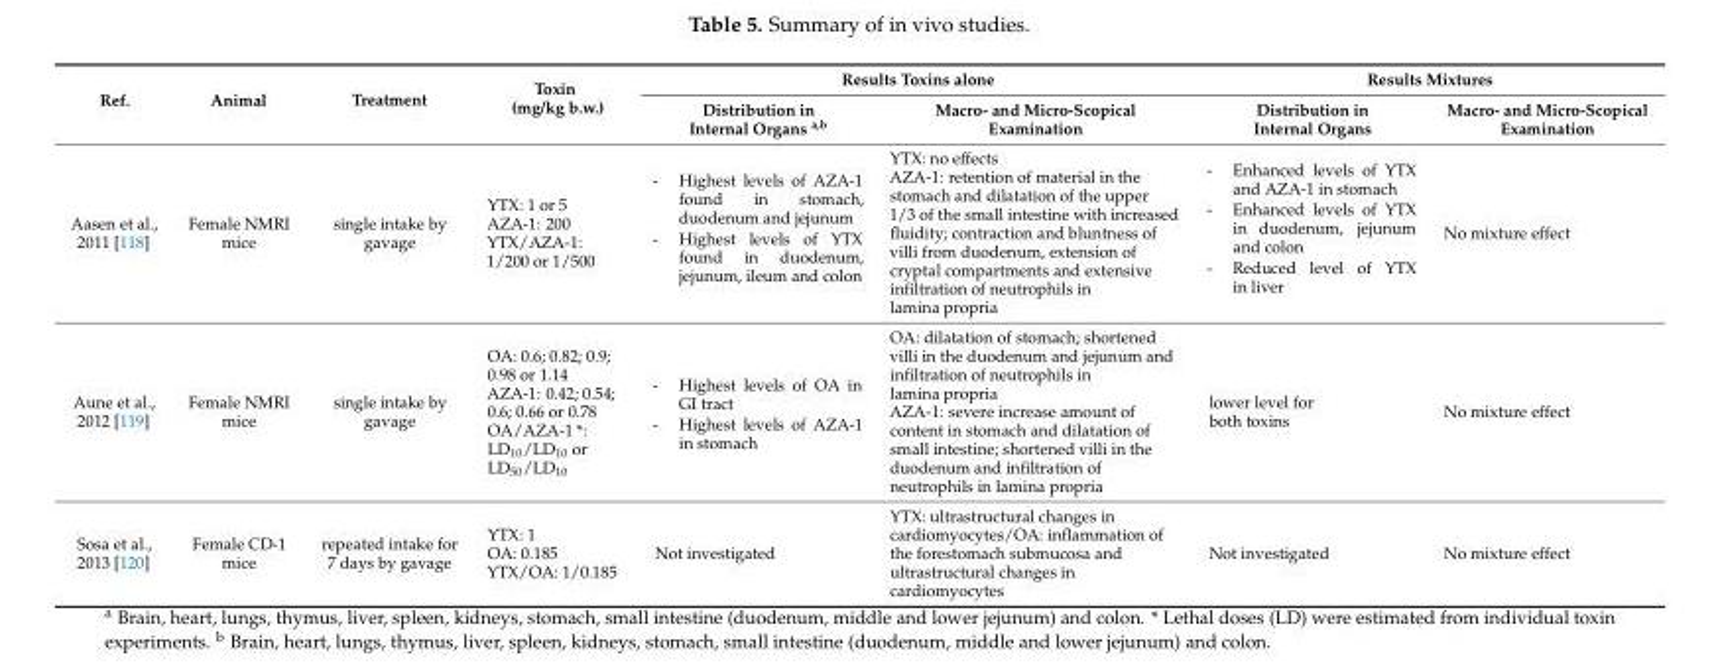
<table><thead><tr><td rowspan="2">Ref.</td><td rowspan="2">Animal</td><td rowspan="2">Treatment</td><td rowspan="2">Toxin (mg/kg b.w.)</td><td colspan="2">Results Toxins alone</td><td colspan="2">Results Mixtures</td></tr><tr><td>Distribution in Internal Organs <sup>a,b</sup></td><td>Macro- and Micro-Scopical Examination</td><td>Distribution in Internal Organs</td><td>Macro- and Micro-Scopical Examination</td></tr></thead><tbody><tr><td>Aasen et al., 2011 [118]</td><td>Female NMRI mice</td><td>single intake by gavage</td><td>YTX: 1 or 5 AZA-1: 200 YTX/AZA-1: 1/200 or 1/500</td><td>- Highest levels of AZA-1 found in stomach, duodenum and jejunum - Highest levels of YTX found in duodenum, jejunum, ileum and colon</td><td>YTX: no effects AZA-1: retention of material in the stomach and dilatation of the upper 1/3 of the small intestine with increased fluidity; contraction and bluntness of villi from duodenum, extension of cryptal compartments and extensive infiltration of neutrophils in lamina propria</td><td>- Enhanced levels of YTX and AZA-1 in stomach - Enhanced levels of YTX in duodenum, jejunum and colon - Reduced level of YTX in liver</td><td>No mixture effect</td></tr><tr><td>Aune et al., 2012 [119]</td><td>Female NMRI mice</td><td>single intake by gavage</td><td>OA: 0.6; 0.82; 0.9; 0.98 or 1.14 AZA-1: 0.42; 0.54; 0.6; 0.66 or 0.78 OA/AZA-1 *: LD<sub>10</sub>/LD<sub>10</sub> or LD<sub>50</sub>/LD<sub>10</sub></td><td>- Highest levels of OA in GI tract - Highest levels of AZA-1 in stomach</td><td>OA: dilatation of stomach; shortened villi in the duodenum and jejunum and infiltration of neutrophils in lamina propria AZA-1: severe increase amount of content in stomach and dilatation of small intestine; shortened villi in the duodenum and infiltration of neutrophils in lamina propria</td><td>lower level for both toxins</td><td>No mixture effect</td></tr><tr><td>Sosa et al., 2013 [120]</td><td>Female CD-1 mice</td><td>repeated intake for 7 days by gavage</td><td>YTX: 1 OA: 0.185 YTX/OA: 1/0.185</td><td>Not investigated</td><td>YTX: ultrastructural changes in cardiomyocytes/OA: inflammation of the forestomach submucosa and ultrastructural changes in cardiomyocytes</td><td>Not investigated</td><td>No mixture effect</td></tr></tbody></table>